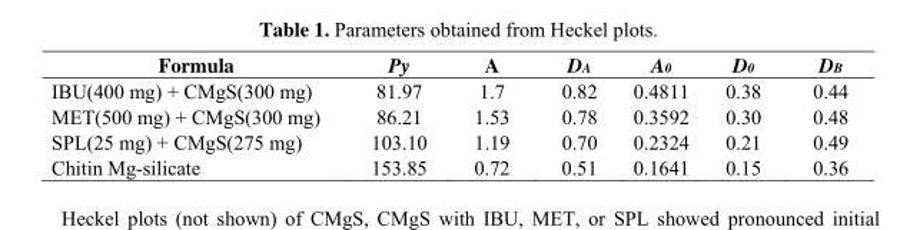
<table><thead><tr><td>Formula</td><td>P<sub>y</sub></td><td>A</td><td>D<sub>A</sub></td><td>A<sub>0</sub></td><td>D<sub>0</sub></td><td>D<sub>B</sub></td></tr></thead><tbody><tr><td>IBU(400 mg) + CMgS(300 mg)</td><td>81.97</td><td>1.7</td><td>0.82</td><td>0.4811</td><td>0.38</td><td>0.44</td></tr><tr><td>MET(500 mg) + CMgS(300 mg)</td><td>86.21</td><td>1.53</td><td>0.78</td><td>0.3592</td><td>0.30</td><td>0.48</td></tr><tr><td>SPL(25 mg) + CMgS(275 mg)</td><td>103.10</td><td>1.19</td><td>0.70</td><td>0.2324</td><td>0.21</td><td>0.49</td></tr><tr><td>Chitin Mg-silicate</td><td>153.85</td><td>0.72</td><td>0.51</td><td>0.1641</td><td>0.15</td><td>0.36</td></tr></tbody></table>